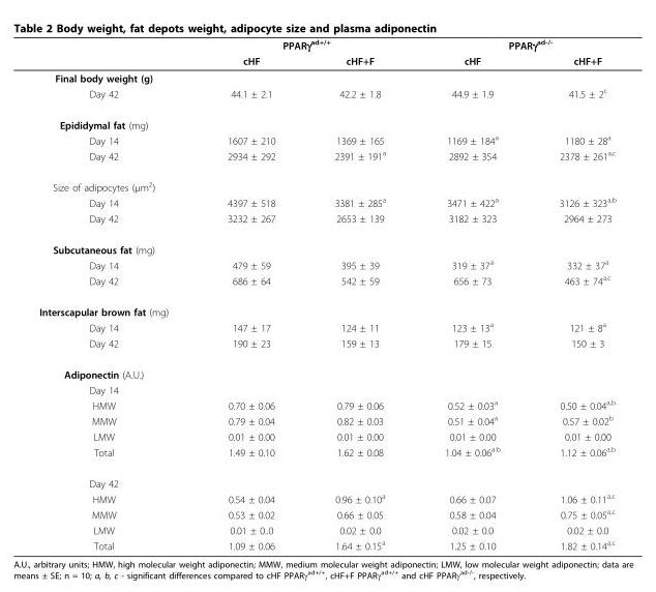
<table><thead><tr><td rowspan="2"></td><td colspan="2">PPARγ<sup>ad+/+</sup></td><td colspan="2">PPARγ<sup>ad-/-</sup></td></tr><tr><td>cHF</td><td>cHF+F</td><td>cHF</td><td>cHF+F</td></tr></thead><tbody><tr><td colspan="5">Final body weight (g)</td></tr><tr><td>Day 42</td><td>44.1 ± 2.1</td><td>42.2 ± 1.8</td><td>44.9 ± 1.9</td><td>41.5 ± 2<sup>c</sup></td></tr><tr><td colspan="5">Epididymal fat (mg)</td></tr><tr><td>Day 14</td><td>1607 ± 210</td><td>1369 ± 165</td><td>1169 ± 184<sup>a</sup></td><td>1180 ± 28<sup>a</sup></td></tr><tr><td>Day 42</td><td>2934 ± 292</td><td>2391 ± 191<sup>a</sup></td><td>2892 ± 354</td><td>2378 ± 261<sup>a,c</sup></td></tr><tr><td colspan="5">Size of adipocytes (μm<sup>2</sup>)</td></tr><tr><td>Day 14</td><td>4397 ± 518</td><td>3381 ± 285<sup>a</sup></td><td>3471 ± 422<sup>a</sup></td><td>3126 ± 323<sup>a,b</sup></td></tr><tr><td>Day 42</td><td>3232 ± 267</td><td>2653 ± 139</td><td>3182 ± 323</td><td>2964 ± 273</td></tr><tr><td colspan="5">Subcutaneous fat (mg)</td></tr><tr><td>Day 14</td><td>479 ± 59</td><td>395 ± 39</td><td>319 ± 37<sup>a</sup></td><td>332 ± 37<sup>a</sup></td></tr><tr><td>Day 42</td><td>686 ± 64</td><td>542 ± 59</td><td>656 ± 73</td><td>463 ± 74<sup>a,c</sup></td></tr><tr><td colspan="5">Interscapular brown fat (mg)</td></tr><tr><td>Day 14</td><td>147 ± 17</td><td>124 ± 11</td><td>123 ± 13<sup>a</sup></td><td>121 ± 8<sup>a</sup></td></tr><tr><td>Day 42</td><td>190 ± 23</td><td>159 ± 13</td><td>179 ± 15</td><td>150 ± 3</td></tr><tr><td colspan="5">Adiponectin (A.U.)</td></tr><tr><td colspan="5">Day 14</td></tr><tr><td>HMW</td><td>0.70 ± 0.06</td><td>0.79 ± 0.06</td><td>0.52 ± 0.03<sup>a</sup></td><td>0.50 ± 0.04<sup>a,b</sup></td></tr><tr><td>MMW</td><td>0.79 ± 0.04</td><td>0.82 ± 0.03</td><td>0.51 ± 0.04<sup>a</sup></td><td>0.57 ± 0.02<sup>b</sup></td></tr><tr><td>LMW</td><td>0.01 ± 0.00</td><td>0.01 ± 0.00</td><td>0.01 ± 0.00</td><td>0.01 ± 0.00</td></tr><tr><td>Total</td><td>1.49 ± 0.10</td><td>1.62 ± 0.08</td><td>1.04 ± 0.06<sup>a.b</sup></td><td>1.12 ± 0.06<sup>a,b</sup></td></tr><tr><td colspan="5">Day 42</td></tr><tr><td>HMW</td><td>0.54 ± 0.04</td><td>0.96 ± 0.10<sup>a</sup></td><td>0.66 ± 0.07</td><td>1.06 ± 0.11<sup>a,c</sup></td></tr><tr><td>MMW</td><td>0.53 ± 0.02</td><td>0.66 ± 0.05</td><td>0.58 ± 0.04</td><td>0.75 ± 0.05<sup>a,c</sup></td></tr><tr><td>LMW</td><td>0.01 ± 0..0</td><td>0.02 ± 0.0</td><td>0.02 ± 0.0</td><td>0.02 ± 0.0</td></tr><tr><td>Total</td><td>1.09 ± 0.06</td><td>1.64 ± 0.15<sup>a</sup></td><td>1.25 ± 0.10</td><td>1.82 ± 0.14<sup>a,c</sup></td></tr></tbody></table>